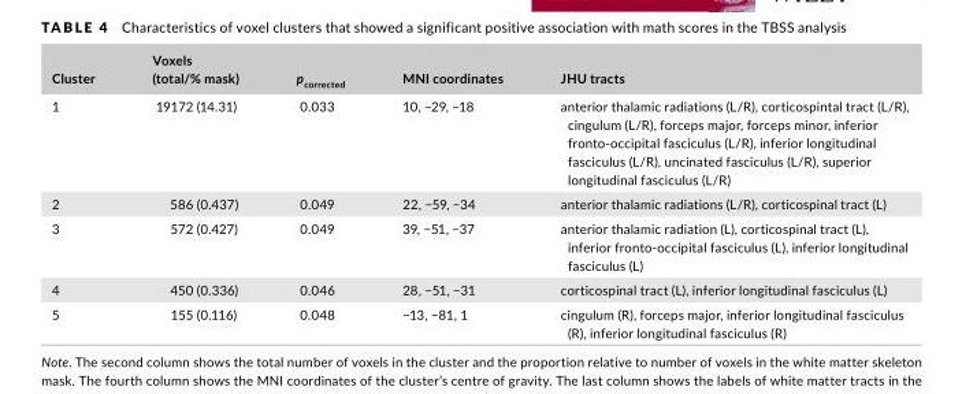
<table><thead><tr><td>Cluster</td><td>Voxels (total/% mask)</td><td>p<sub>corrected</sub></td><td>MNI coordinates</td><td>JHU tracts</td></tr></thead><tbody><tr><td>1</td><td>19172 (14.31)</td><td>0.033</td><td>10, −29, −18</td><td>anterior thalamic radiations (L/R), corticospintal tract (L/R), cingulum (L/R), forceps major, forceps minor, inferior fronto- occipital fasciculus (L/R), inferior longitudinal fasciculus (L/R), uncinated fasciculus (L/R), superior longitudinal fasciculus (L/R)</td></tr><tr><td>2</td><td>586 (0.437)</td><td>0.049</td><td>22, −59, −34</td><td>anterior thalamic radiations (L/R), corticospinal tract (L)</td></tr><tr><td>3</td><td>572 (0.427)</td><td>0.049</td><td>39, −51, −37</td><td>anterior thalamic radiation (L), corticospinal tract (L), inferior fronto- occipital fasciculus (L), inferior longitudinal fasciculus (L)</td></tr><tr><td>4</td><td>450 (0.336)</td><td>0.046</td><td>28, −51, −31</td><td>corticospinal tract (L), inferior longitudinal fasciculus (L)</td></tr><tr><td>5</td><td>155 (0.116)</td><td>0.048</td><td>−13, −81, 1</td><td>cingulum (R), forceps major, inferior longitudinal fasciculus (R), inferior longitudinal fasciculus (R)</td></tr></tbody></table>